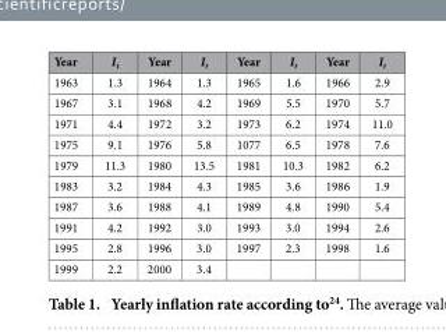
<table><thead><tr><td>Year</td><td>I<sub>t</sub></td><td>Year</td><td>I<sub>t</sub></td><td>Year</td><td>I<sub>t</sub></td><td>Year</td><td>I<sub>t</sub></td></tr></thead><tbody><tr><td>1963</td><td>1.3</td><td>1964</td><td>1.3</td><td>1965</td><td>1.6</td><td>1966</td><td>2.9</td></tr><tr><td>1967</td><td>3.1</td><td>1968</td><td>4.2</td><td>1969</td><td>5.5</td><td>1970</td><td>5.7</td></tr><tr><td>1971</td><td>4.4</td><td>1972</td><td>3.2</td><td>1973</td><td>6.2</td><td>1974</td><td>11.0</td></tr><tr><td>1975</td><td>9.1</td><td>1976</td><td>5.8</td><td>1077</td><td>6.5</td><td>1978</td><td>7.6</td></tr><tr><td>1979</td><td>11.3</td><td>1980</td><td>13.5</td><td>1981</td><td>10.3</td><td>1982</td><td>6.2</td></tr><tr><td>1983</td><td>3.2</td><td>1984</td><td>4.3</td><td>1985</td><td>3.6</td><td>1986</td><td>1.9</td></tr><tr><td>1987</td><td>3.6</td><td>1988</td><td>4.1</td><td>1989</td><td>4.8</td><td>1990</td><td>5.4</td></tr><tr><td>1991</td><td>4.2</td><td>1992</td><td>3.0</td><td>1993</td><td>3.0</td><td>1994</td><td>2.6</td></tr><tr><td>1995</td><td>2.8</td><td>1996</td><td>3.0</td><td>1997</td><td>2.3</td><td>1998</td><td>1.6</td></tr><tr><td>1999</td><td>2.2</td><td>2000</td><td>3.4</td><td></td><td></td><td></td><td></td></tr></tbody></table>